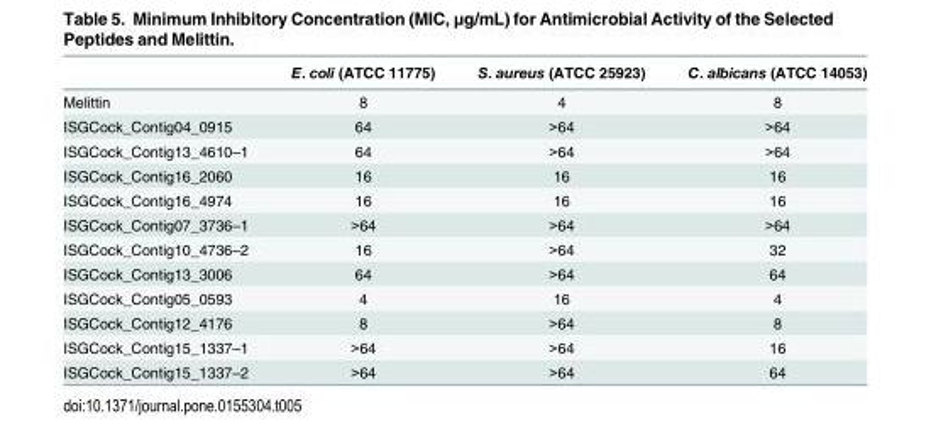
<table><thead><tr><td></td><td>E. coli (ATCC 11775)</td><td>S. aureus (ATCC 25923)</td><td>C. albicans (ATCC 14053)</td></tr></thead><tbody><tr><td>Melittin</td><td>8</td><td>4</td><td>8</td></tr><tr><td>ISGCock_Contig04_0915</td><td>64</td><td>&gt;64</td><td>&gt;64</td></tr><tr><td>ISGCock_Contig13_4610–1</td><td>64</td><td>&gt;64</td><td>&gt;64</td></tr><tr><td>ISGCock_Contig16_2060</td><td>16</td><td>16</td><td>16</td></tr><tr><td>ISGCock_Contig16_4974</td><td>16</td><td>16</td><td>16</td></tr><tr><td>ISGCock_Contig07_3736–1</td><td>&gt;64</td><td>&gt;64</td><td>&gt;64</td></tr><tr><td>ISGCock_Contig10_4736–2</td><td>16</td><td>&gt;64</td><td>32</td></tr><tr><td>ISGCock_Contig13_3006</td><td>64</td><td>&gt;64</td><td>64</td></tr><tr><td>ISGCock_Contig05_0593</td><td>4</td><td>16</td><td>4</td></tr><tr><td>ISGCock_Contig12_4176</td><td>8</td><td>&gt;64</td><td>8</td></tr><tr><td>ISGCock_Contig15_1337–1</td><td>&gt;64</td><td>&gt;64</td><td>16</td></tr><tr><td>ISGCock_Contig15_1337–2</td><td>&gt;64</td><td>&gt;64</td><td>64</td></tr></tbody></table>